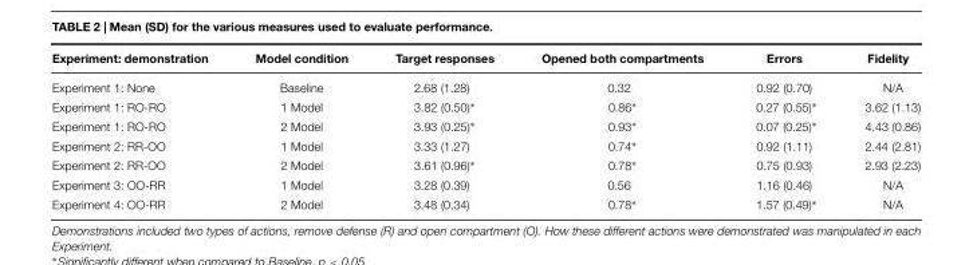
<table><thead><tr><td>Experiment: demonstration</td><td>Model condition</td><td>Target responses</td><td>Opened both compartments</td><td>Errors</td><td>Fidelity</td></tr></thead><tbody><tr><td>Experiment 1: None</td><td>Baseline</td><td>2.68 (1.28)</td><td>0.32</td><td>0.92 (0.70)</td><td>N/A</td></tr><tr><td>Experiment 1: RO-RO</td><td>1 Model</td><td>3.82 (0.50)∗</td><td>0.86∗</td><td>0.27 (0.55)∗</td><td>3.62 (1.13)</td></tr><tr><td>Experiment 1: RO-RO</td><td>2 Model</td><td>3.93 (0.25)∗</td><td>0.93∗</td><td>0.07 (0.25)∗</td><td>4.43 (0.86)</td></tr><tr><td>Experiment 2: RR-OO</td><td>1 Model</td><td>3.33 (1.27)</td><td>0.74∗</td><td>0.92 (1.11)</td><td>2.44 (2.81)</td></tr><tr><td>Experiment 2: RR-OO</td><td>2 Model</td><td>3.61 (0.96)∗</td><td>0.78∗</td><td>0.75 (0.93)</td><td>2.93 (2.23)</td></tr><tr><td>Experiment 3: OO-RR</td><td>1 Model</td><td>3.28 (0.39)</td><td>0.56</td><td>1.16 (0.46)</td><td>N/A</td></tr><tr><td>Experiment 4: OO-RR</td><td>2 Model</td><td>3.48 (0.34)</td><td>0.78∗</td><td>1.57 (0.49)∗</td><td>N/A</td></tr></tbody></table>